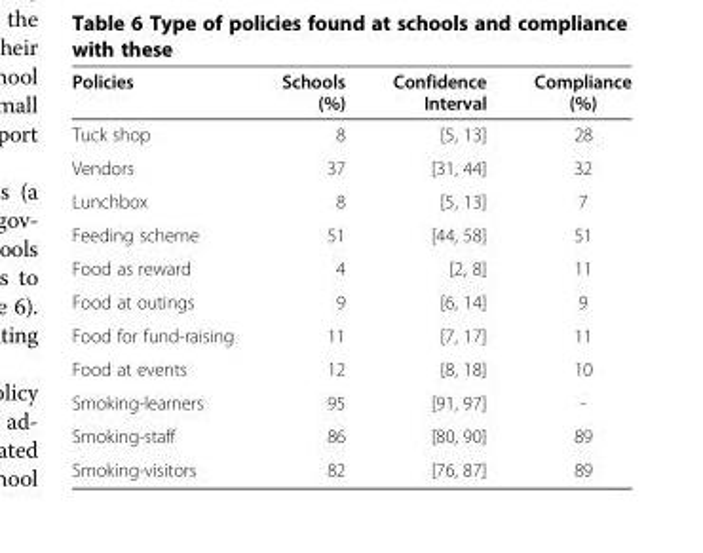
<table><thead><tr><td>Policies</td><td>Schools (%)</td><td>Confidence Interval</td><td>Compliance (%)</td></tr></thead><tbody><tr><td>Tuck shop</td><td>8</td><td>[5, 13]</td><td>28</td></tr><tr><td>Vendors</td><td>37</td><td>[31, 44]</td><td>32</td></tr><tr><td>Lunchbox</td><td>8</td><td>[5, 13]</td><td>7</td></tr><tr><td>Feeding scheme</td><td>51</td><td>[44, 58]</td><td>51</td></tr><tr><td>Food as reward</td><td>4</td><td>[2, 8]</td><td>11</td></tr><tr><td>Food at outings</td><td>9</td><td>[6, 14]</td><td>9</td></tr><tr><td>Food for fund-raising</td><td>11</td><td>[7, 17]</td><td>11</td></tr><tr><td>Food at events</td><td>12</td><td>[8, 18]</td><td>10</td></tr><tr><td>Smoking-learners</td><td>95</td><td>[91, 97]</td><td>-</td></tr><tr><td>Smoking-staff</td><td>86</td><td>[80, 90]</td><td>89</td></tr><tr><td>Smoking-visitors</td><td>82</td><td>[76, 87]</td><td>89</td></tr></tbody></table>